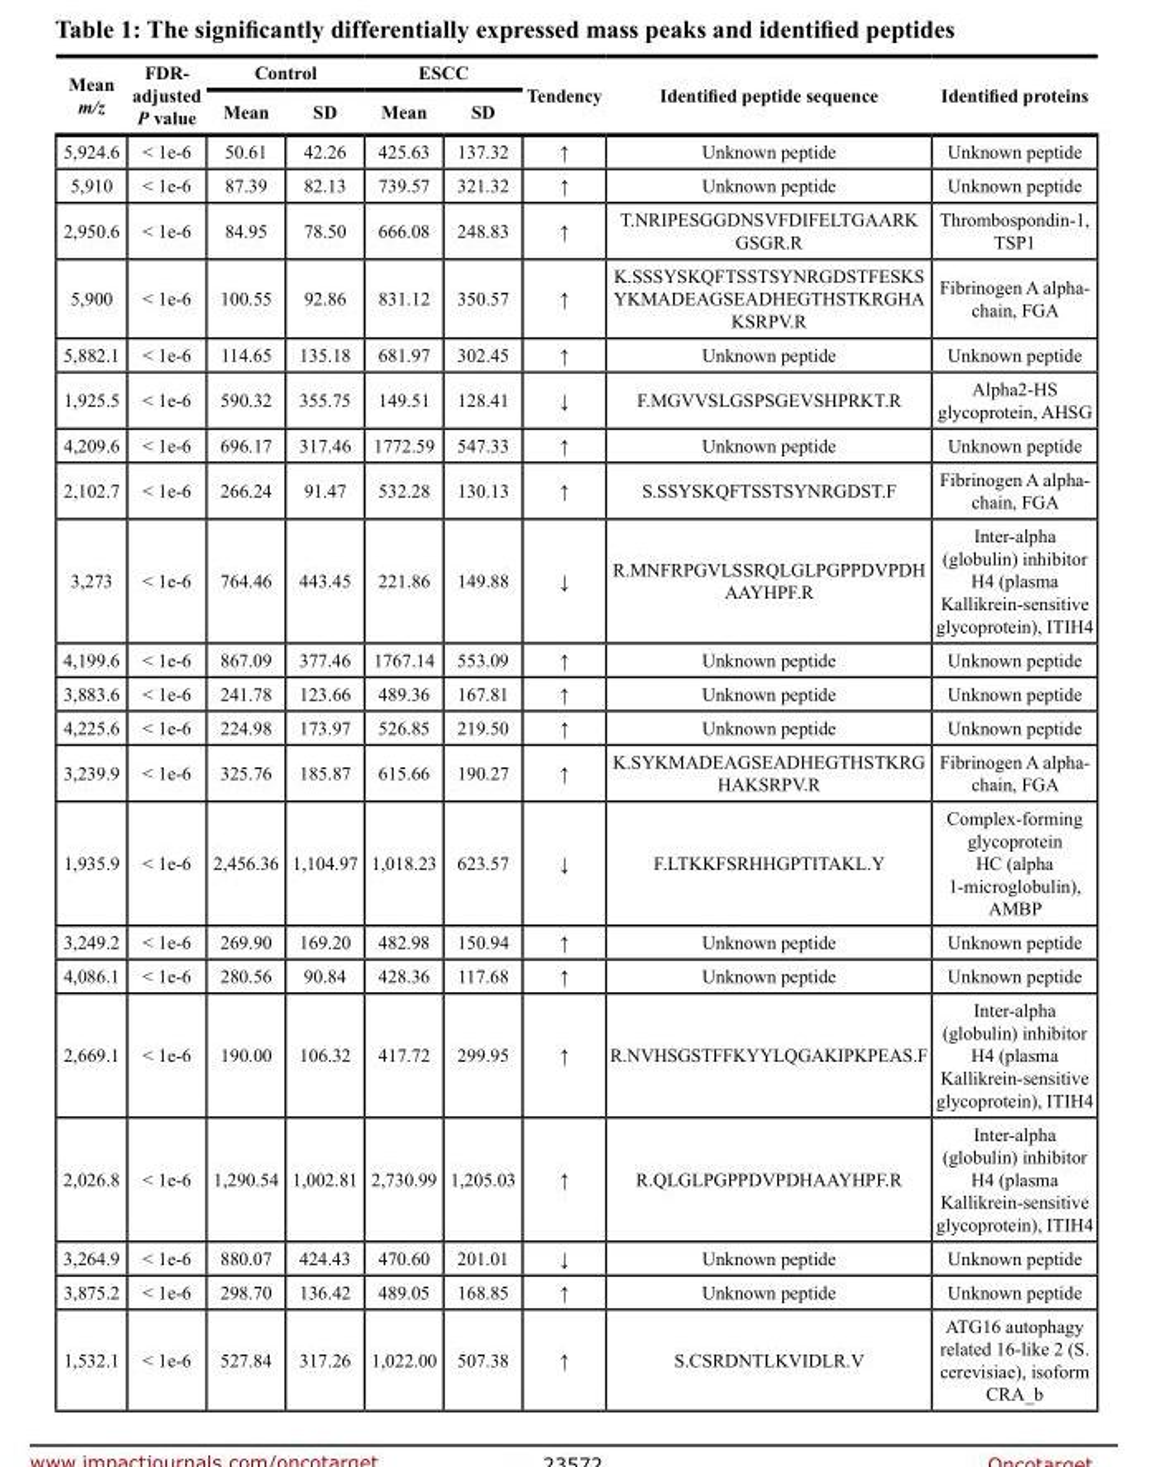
<table><thead><tr><td rowspan="2">Mean m/z</td><td rowspan="2">FDr- adjusted P value</td><td colspan="2">control</td><td colspan="2">Escc</td><td rowspan="2">tendency</td><td rowspan="2">Identified peptide sequence</td><td rowspan="2">Identified proteins</td></tr><tr><td>Mean</td><td>sD</td><td>Mean</td><td>sD</td></tr></thead><tbody><tr><td>5,924.6</td><td>&lt; 1e-6</td><td>50.61</td><td>42.26</td><td>425.63</td><td>137.32</td><td>↑</td><td>Unknown peptide</td><td>Unknown peptide</td></tr><tr><td>5,910</td><td>&lt; 1e-6</td><td>87.39</td><td>82.13</td><td>739.57</td><td>321.32</td><td>↑</td><td>Unknown peptide</td><td>Unknown peptide</td></tr><tr><td>2,950.6</td><td>&lt; 1e-6</td><td>84.95</td><td>78.50</td><td>666.08</td><td>248.83</td><td>↑</td><td>T.NRIPESGGDNSVFDIFELTGAARK GSGR.R</td><td>Thrombospondin-1, TSP1</td></tr><tr><td>5,900</td><td>&lt; 1e-6</td><td>100.55</td><td>92.86</td><td>831.12</td><td>350.57</td><td>↑</td><td>K.SSSYSKQFTSSTSYNRGDSTFESKS YKMADEAGSEADHEGTHSTKRGHA KSRPV.R</td><td>Fibrinogen A alpha- chain, FGA</td></tr><tr><td>5,882.1</td><td>&lt; 1e-6</td><td>114.65</td><td>135.18</td><td>681.97</td><td>302.45</td><td>↑</td><td>Unknown peptide</td><td>Unknown peptide</td></tr><tr><td>1,925.5</td><td>&lt; 1e-6</td><td>590.32</td><td>355.75</td><td>149.51</td><td>128.41</td><td>↓</td><td>F.MGVVSLGSPSGEVSHPRKT.R</td><td>Alpha2-HS glycoprotein, AHSG</td></tr><tr><td>4,209.6</td><td>&lt; 1e-6</td><td>696.17</td><td>317.46</td><td>1772.59</td><td>547.33</td><td>↑</td><td>Unknown peptide</td><td>Unknown peptide</td></tr><tr><td>2,102.7</td><td>&lt; 1e-6</td><td>266.24</td><td>91.47</td><td>532.28</td><td>130.13</td><td>↑</td><td>S.SSYSKQFTSSTSYNRGDST.F</td><td>Fibrinogen A alpha- chain, FGA</td></tr><tr><td>3,273</td><td>&lt; 1e-6</td><td>764.46</td><td>443.45</td><td>221.86</td><td>149.88</td><td>↓</td><td>R.MNFRPGVLSSRQLGLPGPPDVPDH AAYHPF.R</td><td>Inter-alpha (globulin) inhibitor H4 (plasma Kallikrein-sensitive glycoprotein), ITIH4</td></tr><tr><td>4,199.6</td><td>&lt; 1e-6</td><td>867.09</td><td>377.46</td><td>1767.14</td><td>553.09</td><td>↑</td><td>Unknown peptide</td><td>Unknown peptide</td></tr><tr><td>3,883.6</td><td>&lt; 1e-6</td><td>241.78</td><td>123.66</td><td>489.36</td><td>167.81</td><td>↑</td><td>Unknown peptide</td><td>Unknown peptide</td></tr><tr><td>4,225.6</td><td>&lt; 1e-6</td><td>224.98</td><td>173.97</td><td>526.85</td><td>219.50</td><td>↑</td><td>Unknown peptide</td><td>Unknown peptide</td></tr><tr><td>3,239.9</td><td>&lt; 1e-6</td><td>325.76</td><td>185.87</td><td>615.66</td><td>190.27</td><td>↑</td><td>K.SYKMADEAGSEADHEGTHSTKRG HAKSRPV.R</td><td>Fibrinogen A alpha- chain, FGA</td></tr><tr><td>1,935.9</td><td>&lt; 1e-6</td><td>2,456.36</td><td>1,104.97</td><td>1,018.23</td><td>623.57</td><td>↓</td><td>F.LTKKFSRHHGPTITAKL.Y</td><td>Complex-forming glycoprotein HC (alpha 1-microglobulin), AMBP</td></tr><tr><td>3,249.2</td><td>&lt; 1e-6</td><td>269.90</td><td>169.20</td><td>482.98</td><td>150.94</td><td>↑</td><td>Unknown peptide</td><td>Unknown peptide</td></tr><tr><td>4,086.1</td><td>&lt; 1e-6</td><td>280.56</td><td>90.84</td><td>428.36</td><td>117.68</td><td>↑</td><td>Unknown peptide</td><td>Unknown peptide</td></tr><tr><td>2,669.1</td><td>&lt; 1e-6</td><td>190.00</td><td>106.32</td><td>417.72</td><td>299.95</td><td>↑</td><td>R.NVHSGSTFFKYYLQGAKIPKPEAS.F</td><td>Inter-alpha (globulin) inhibitor H4 (plasma Kallikrein-sensitive glycoprotein), ITIH4</td></tr><tr><td>2,026.8</td><td>&lt; 1e-6</td><td>1,290.54</td><td>1,002.81</td><td>2,730.99</td><td>1,205.03</td><td>↑</td><td>R.QLGLPGPPDVPDHAAYHPF.R</td><td>Inter-alpha (globulin) inhibitor H4 (plasma Kallikrein-sensitive glycoprotein), ITIH4</td></tr><tr><td>3,264.9</td><td>&lt; 1e-6</td><td>880.07</td><td>424.43</td><td>470.60</td><td>201.01</td><td>↓</td><td>Unknown peptide</td><td>Unknown peptide</td></tr><tr><td>3,875.2</td><td>&lt; 1e-6</td><td>298.70</td><td>136.42</td><td>489.05</td><td>168.85</td><td>↑</td><td>Unknown peptide</td><td>Unknown peptide</td></tr><tr><td>1,532.1</td><td>&lt; 1e-6</td><td>527.84</td><td>317.26</td><td>1,022.00</td><td>507.38</td><td>↑</td><td>S.CSRDNTLKVIDLR.V</td><td>ATG16 autophagy related 16-like 2 (S. cerevisiae), isoform CRA_b</td></tr></tbody></table>